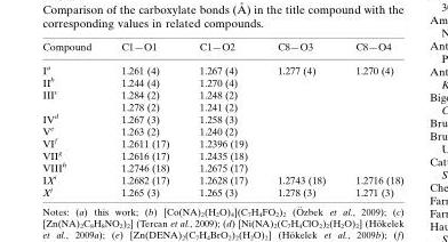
<table><tbody><tr><td>Compound</td><td>C1—O1</td><td>C1—O2</td><td>C8—O3</td><td>C8—O4</td></tr><tr><td>I<sup>a</sup></td><td>1.261 (4)</td><td>1.267 (4)</td><td>1.277 (4)</td><td>1.270 (4)</td></tr><tr><td>II<sup>b</sup></td><td>1.244 (4)</td><td>1.270 (4)</td><td></td><td></td></tr><tr><td rowspan="2">III<sup>c</sup></td><td>1.284 (2)</td><td>1.248 (2)</td><td></td><td></td></tr><tr><td>1.278 (2)</td><td>1.241 (2)</td><td></td><td></td></tr><tr><td>IV<sup>d</sup></td><td>1.267 (3)</td><td>1.258 (3)</td><td></td><td></td></tr><tr><td>V<sup>e</sup></td><td>1.263 (2)</td><td>1.240 (2)</td><td></td><td></td></tr><tr><td>VI<sup>f</sup></td><td>1.2611 (17)</td><td>1.2396 (19)</td><td></td><td></td></tr><tr><td>VII<sup>g</sup></td><td>1.2616 (17)</td><td>1.2435 (18)</td><td></td><td></td></tr><tr><td>VIII<sup>h</sup></td><td>1.2746 (18)</td><td>1.2675 (17)</td><td></td><td></td></tr><tr><td>IX<sup>i</sup></td><td>1.2682 (17)</td><td>1.2628 (17)</td><td>1.2743 (18)</td><td>1.2716 (18)</td></tr><tr><td>X<sup>j</sup></td><td>1.265 (3)</td><td>1.265 (3)</td><td>1.278 (3)</td><td>1.271 (3)</td></tr></tbody></table>